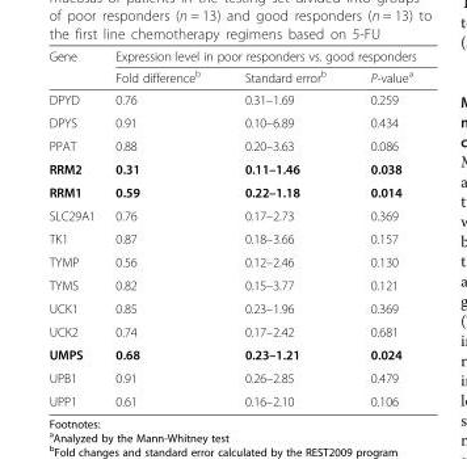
<table><thead><tr><td rowspan="2">Gene</td><td colspan="3">Expression level in poor responders vs. good responders</td></tr><tr><td>Fold difference<sup>b</sup></td><td>Standard error<sup>b</sup></td><td>P-value<sup>a</sup></td></tr></thead><tbody><tr><td>DPYD</td><td>0.76</td><td>0.31–1.69</td><td>0.259</td></tr><tr><td>DPYS</td><td>0.91</td><td>0.10–6.89</td><td>0.434</td></tr><tr><td>PPAT</td><td>0.88</td><td>0.20–3.63</td><td>0.086</td></tr><tr><td>RRM2</td><td>0.31</td><td>0.11–1.46</td><td>0.038</td></tr><tr><td>RRM1</td><td>0.59</td><td>0.22–1.18</td><td>0.014</td></tr><tr><td>SLC29A1</td><td>0.76</td><td>0.17–2.73</td><td>0.369</td></tr><tr><td>TK1</td><td>0.87</td><td>0.18–3.66</td><td>0.157</td></tr><tr><td>TYMP</td><td>0.56</td><td>0.12–2.46</td><td>0.130</td></tr><tr><td>TYMS</td><td>0.82</td><td>0.15–3.77</td><td>0.121</td></tr><tr><td>UCK1</td><td>0.85</td><td>0.23–1.96</td><td>0.369</td></tr><tr><td>UCK2</td><td>0.74</td><td>0.17–2.42</td><td>0.681</td></tr><tr><td>UMPS</td><td>0.68</td><td>0.23–1.21</td><td>0.024</td></tr><tr><td>UPB1</td><td>0.91</td><td>0.26–2.85</td><td>0.479</td></tr><tr><td>UPP1</td><td>0.61</td><td>0.16–2.10</td><td>0.106</td></tr></tbody></table>